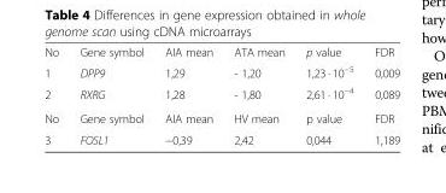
<table><tbody><tr><td>No</td><td>Gene symbol</td><td>AIA mean</td><td>ATA mean</td><td>p value</td><td>FDR</td></tr><tr><td>1</td><td>DPP9</td><td>1,29</td><td>- 1,20</td><td>1,23 · 10<sup>−5</sup></td><td>0,009</td></tr><tr><td>2</td><td>RXRG</td><td>1,28</td><td>- 1,80</td><td>2,61 · 10<sup>−4</sup></td><td>0,089</td></tr><tr><td>No</td><td>Gene symbol</td><td>AIA mean</td><td>HV mean</td><td>p value</td><td>FDR</td></tr><tr><td>3</td><td>FOSL1</td><td>−0,39</td><td>2,42</td><td>0,044</td><td>1,189</td></tr></tbody></table>